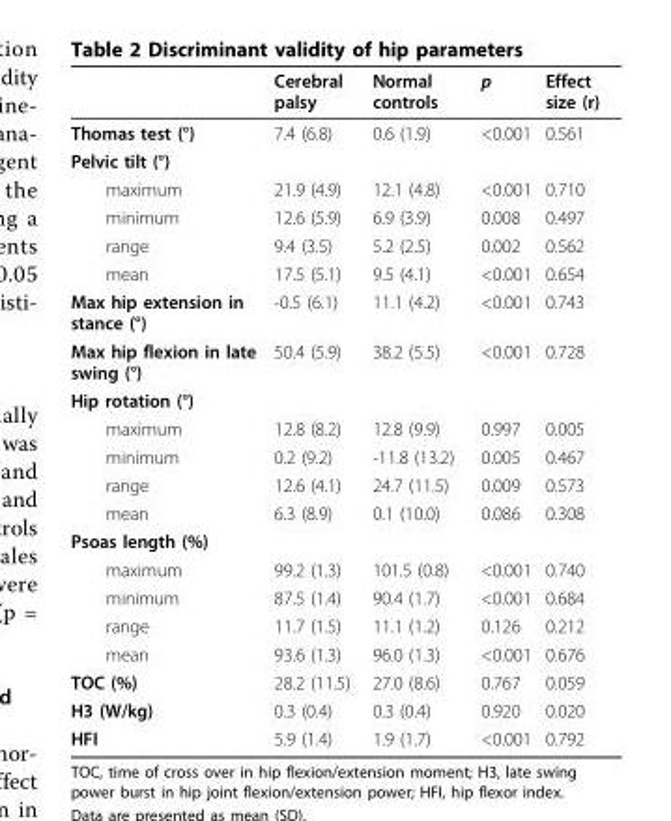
<table><thead><tr><td></td><td>Cerebral palsy</td><td>Normal controls</td><td>p</td><td>Effect size (r)</td></tr></thead><tbody><tr><td>Thomas test (°)</td><td>7.4 (6.8)</td><td>0.6 (1.9)</td><td>&lt;0.001</td><td>0.561</td></tr><tr><td colspan="5">Pelvic tilt (°)</td></tr><tr><td>maximum</td><td>21.9 (4.9)</td><td>12.1 (4.8)</td><td>&lt;0.001</td><td>0.710</td></tr><tr><td>minimum</td><td>12.6 (5.9)</td><td>6.9 (3.9)</td><td>0.008</td><td>0.497</td></tr><tr><td>range</td><td>9.4 (3.5)</td><td>5.2 (2.5)</td><td>0.002</td><td>0.562</td></tr><tr><td>mean</td><td>17.5 (5.1)</td><td>9.5 (4.1)</td><td>&lt;0.001</td><td>0.654</td></tr><tr><td>Max hip extension in stance (°)</td><td>-0.5 (6.1)</td><td>11.1 (4.2)</td><td>&lt;0.001</td><td>0.743</td></tr><tr><td>Max hip flexion in late swing (°)</td><td>50.4 (5.9)</td><td>38.2 (5.5)</td><td>&lt;0.001</td><td>0.728</td></tr><tr><td colspan="5">Hip rotation (°)</td></tr><tr><td>maximum</td><td>12.8 (8.2)</td><td>12.8 (9.9)</td><td>0.997</td><td>0.005</td></tr><tr><td>minimum</td><td>0.2 (9.2)</td><td>-11.8 (13.2)</td><td>0.005</td><td>0.467</td></tr><tr><td>range</td><td>12.6 (4.1)</td><td>24.7 (11.5)</td><td>0.009</td><td>0.573</td></tr><tr><td>mean</td><td>6.3 (8.9)</td><td>0.1 (10.0)</td><td>0.086</td><td>0.308</td></tr><tr><td colspan="5">Psoas length (%)</td></tr><tr><td>maximum</td><td>99.2 (1.3)</td><td>101.5 (0.8)</td><td>&lt;0.001</td><td>0.740</td></tr><tr><td>minimum</td><td>87.5 (1.4)</td><td>90.4 (1.7)</td><td>&lt;0.001</td><td>0.684</td></tr><tr><td>range</td><td>11.7 (1.5)</td><td>11.1 (1.2)</td><td>0.126</td><td>0.212</td></tr><tr><td>mean</td><td>93.6 (1.3)</td><td>96.0 (1.3)</td><td>&lt;0.001</td><td>0.676</td></tr><tr><td>TOC (%)</td><td>28.2 (11.5)</td><td>27.0 (8.6)</td><td>0.767</td><td>0.059</td></tr><tr><td>H3 (W/kg)</td><td>0.3 (0.4)</td><td>0.3 (0.4)</td><td>0.920</td><td>0.020</td></tr><tr><td>HFI</td><td>5.9 (1.4)</td><td>1.9 (1.7)</td><td>&lt;0.001</td><td>0.792</td></tr></tbody></table>